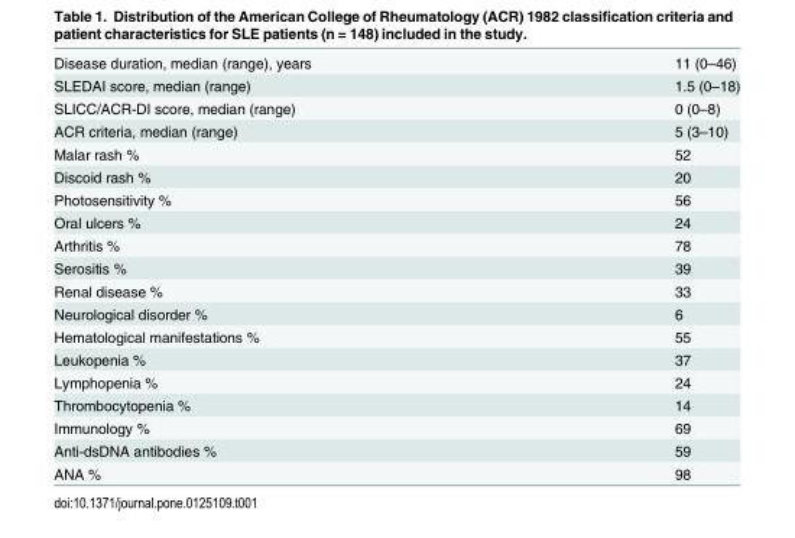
<table><tbody><tr><td>Disease duration, median (range), years</td><td>11 (0–46)</td></tr><tr><td>SLEDAI score, median (range)</td><td>1.5 (0–18)</td></tr><tr><td>SLICC/ACR-DI score, median (range)</td><td>0 (0–8)</td></tr><tr><td>ACR criteria, median (range)</td><td>5 (3–10)</td></tr><tr><td>Malar rash %</td><td>52</td></tr><tr><td>Discoid rash %</td><td>20</td></tr><tr><td>Photosensitivity %</td><td>56</td></tr><tr><td>Oral ulcers %</td><td>24</td></tr><tr><td>Arthritis %</td><td>78</td></tr><tr><td>Serositis %</td><td>39</td></tr><tr><td>Renal disease %</td><td>33</td></tr><tr><td>Neurological disorder %</td><td>6</td></tr><tr><td>Hematological manifestations %</td><td>55</td></tr><tr><td>Leukopenia %</td><td>37</td></tr><tr><td>Lymphopenia %</td><td>24</td></tr><tr><td>Thrombocytopenia %</td><td>14</td></tr><tr><td>Immunology %</td><td>69</td></tr><tr><td>Anti-dsDNA antibodies %</td><td>59</td></tr><tr><td>ANA %</td><td>98</td></tr></tbody></table>